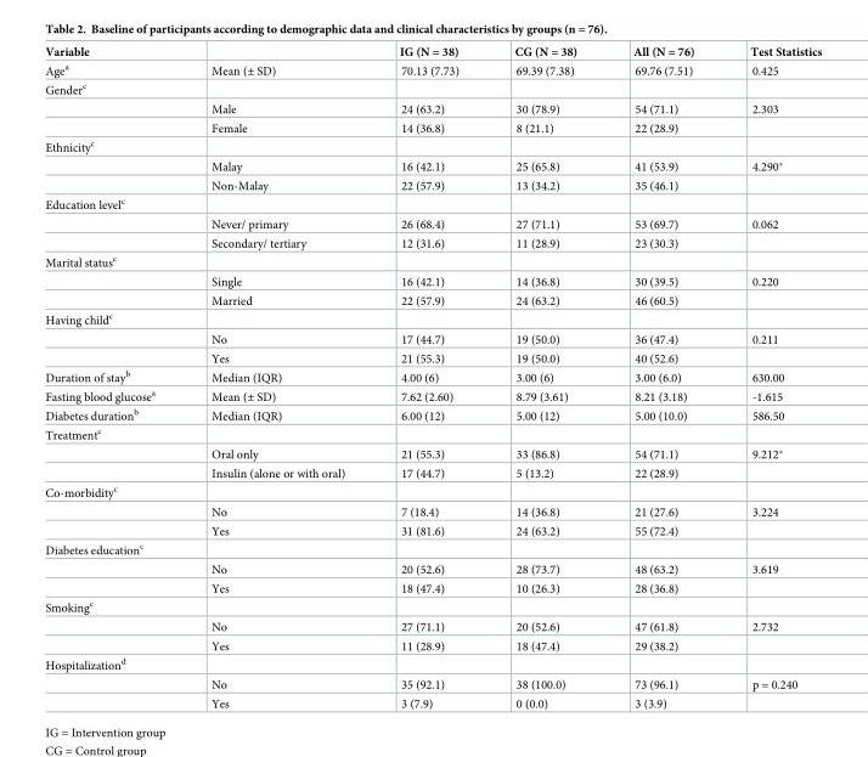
<table><thead><tr><td>Variable</td><td></td><td>IG (N = 38)</td><td>CG (N = 38)</td><td>All (N = 76)</td><td>Test Statistics</td></tr></thead><tbody><tr><td>Age<sup>a</sup></td><td>Mean (± SD)</td><td>70.13 (7.73)</td><td>69.39 (7.38)</td><td>69.76 (7.51)</td><td>0.425</td></tr><tr><td colspan="6">Gender<sup>c</sup></td></tr><tr><td></td><td>Male</td><td>24 (63.2)</td><td>30 (78.9)</td><td>54 (71.1)</td><td>2.303</td></tr><tr><td></td><td>Female</td><td>14 (36.8)</td><td>8 (21.1)</td><td>22 (28.9)</td><td></td></tr><tr><td colspan="6">Ethnicity<sup>c</sup></td></tr><tr><td></td><td>Malay</td><td>16 (42.1)</td><td>25 (65.8)</td><td>41 (53.9)</td><td>4.290*</td></tr><tr><td></td><td>Non-Malay</td><td>22 (57.9)</td><td>13 (34.2)</td><td>35 (46.1)</td><td></td></tr><tr><td colspan="6">Education level<sup>c</sup></td></tr><tr><td></td><td>Never/ primary</td><td>26 (68.4)</td><td>27 (71.1)</td><td>53 (69.7)</td><td>0.062</td></tr><tr><td></td><td>Secondary/ tertiary</td><td>12 (31.6)</td><td>11 (28.9)</td><td>23 (30.3)</td><td></td></tr><tr><td colspan="6">Marital status<sup>c</sup></td></tr><tr><td></td><td>Single</td><td>16 (42.1)</td><td>14 (36.8)</td><td>30 (39.5)</td><td>0.220</td></tr><tr><td></td><td>Married</td><td>22 (57.9)</td><td>24 (63.2)</td><td>46 (60.5)</td><td></td></tr><tr><td colspan="6">Having child<sup>c</sup></td></tr><tr><td></td><td>No</td><td>17 (44.7)</td><td>19 (50.0)</td><td>36 (47.4)</td><td>0.211</td></tr><tr><td></td><td>Yes</td><td>21 (55.3)</td><td>19 (50.0)</td><td>40 (52.6)</td><td></td></tr><tr><td>Duration of stay<sup>b</sup></td><td>Median (IQR)</td><td>4.00 (6)</td><td>3.00 (6)</td><td>3.00 (6.0)</td><td>630.00</td></tr><tr><td>Fasting blood glucose<sup>a</sup></td><td>Mean (± SD)</td><td>7.62 (2.60)</td><td>8.79 (3.61)</td><td>8.21 (3.18)</td><td>-1.615</td></tr><tr><td>Diabetes duration<sup>b</sup></td><td>Median (IQR)</td><td>6.00 (12)</td><td>5.00 (12)</td><td>5.00 (10.0)</td><td>586.50</td></tr><tr><td colspan="6">Treatment<sup>c</sup></td></tr><tr><td></td><td>Oral only</td><td>21 (55.3)</td><td>33 (86.8)</td><td>54 (71.1)</td><td>9.212*</td></tr><tr><td></td><td>Insulin (alone or with oral)</td><td>17 (44.7)</td><td>5 (13.2)</td><td>22 (28.9)</td><td></td></tr><tr><td colspan="6">Co-morbidity<sup>c</sup></td></tr><tr><td></td><td>No</td><td>7 (18.4)</td><td>14 (36.8)</td><td>21 (27.6)</td><td>3.224</td></tr><tr><td></td><td>Yes</td><td>31 (81.6)</td><td>24 (63.2)</td><td>55 (72.4)</td><td></td></tr><tr><td colspan="6">Diabetes education<sup>c</sup></td></tr><tr><td></td><td>No</td><td>20 (52.6)</td><td>28 (73.7)</td><td>48 (63.2)</td><td>3.619</td></tr><tr><td></td><td>Yes</td><td>18 (47.4)</td><td>10 (26.3)</td><td>28 (36.8)</td><td></td></tr><tr><td colspan="6">Smoking<sup>c</sup></td></tr><tr><td></td><td>No</td><td>27 (71.1)</td><td>20 (52.6)</td><td>47 (61.8)</td><td>2.732</td></tr><tr><td></td><td>Yes</td><td>11 (28.9)</td><td>18 (47.4)</td><td>29 (38.2)</td><td></td></tr><tr><td colspan="6">Hospitalization<sup>d</sup></td></tr><tr><td></td><td>No</td><td>35 (92.1)</td><td>38 (100.0)</td><td>73 (96.1)</td><td>p = 0.240</td></tr><tr><td></td><td>Yes</td><td>3 (7.9)</td><td>0 (0.0)</td><td>3 (3.9)</td><td></td></tr></tbody></table>